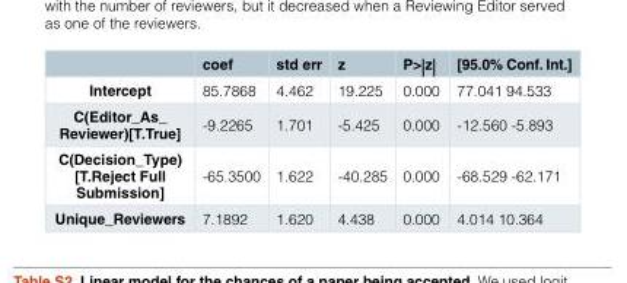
<table><thead><tr><td></td><td>coef</td><td>std err</td><td>z</td><td>P&gt;|z|</td><td>[95.0% Conf. Int.]</td></tr></thead><tbody><tr><td>Intercept</td><td>85.7868</td><td>4.462</td><td>19.225</td><td>0.000</td><td>77.041 94.533</td></tr><tr><td>C(Editor_As_ Reviewer)[T.True]</td><td>-9.2265</td><td>1.701</td><td>-5.425</td><td>0.000</td><td>-12.560 -5.893</td></tr><tr><td>C(Decision_Type) [T.Reject Full Submission]</td><td>-65.3500</td><td>1.622</td><td>-40.285</td><td>0.000</td><td>-68.529 -62.171</td></tr><tr><td>Unique_Reviewers</td><td>7.1892</td><td>1.620</td><td>4.438</td><td>0.000</td><td>4.014 10.364</td></tr></tbody></table>